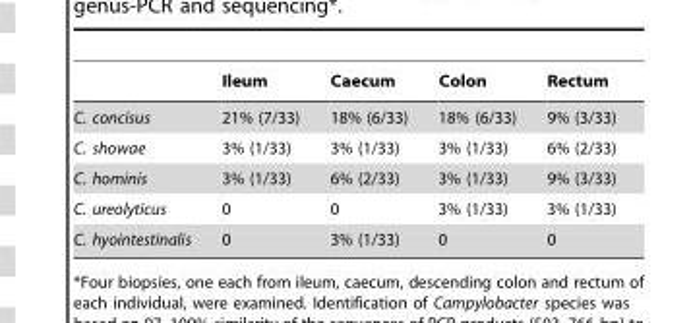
<table><thead><tr><td></td><td>Ileum</td><td>Caecum</td><td>Colon</td><td>Rectum</td></tr></thead><tbody><tr><td>C. concisus</td><td>21% (7/33)</td><td>18% (6/33)</td><td>18% (6/33)</td><td>9% (3/33)</td></tr><tr><td>C. showae</td><td>3% (1/33)</td><td>3% (1/33)</td><td>3% (1/33)</td><td>6% (2/33)</td></tr><tr><td>C. hominis</td><td>3% (1/33)</td><td>6% (2/33)</td><td>3% (1/33)</td><td>9% (3/33)</td></tr><tr><td>C. ureolyticus</td><td>0</td><td>0</td><td>3% (1/33)</td><td>3% (1/33)</td></tr><tr><td>C. hyointestinalis</td><td>0</td><td>3% (1/33)</td><td>0</td><td>0</td></tr></tbody></table>